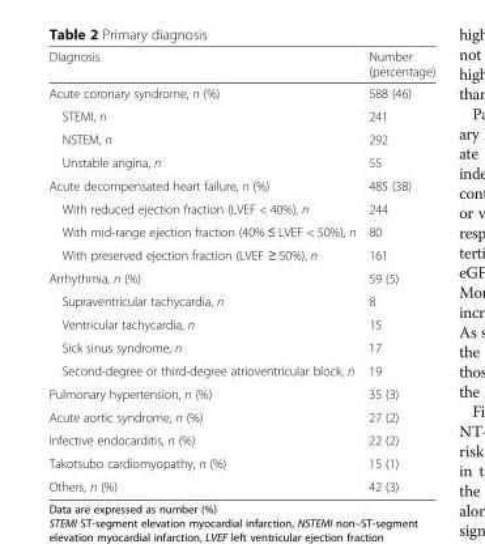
<table><thead><tr><td>Diagnosis</td><td>Number (percentage)</td></tr></thead><tbody><tr><td>Acute coronary syndrome, n (%)</td><td>588 (46)</td></tr><tr><td>STEMI, n</td><td>241</td></tr><tr><td>NSTEM, n</td><td>292</td></tr><tr><td>Unstable angina, n</td><td>55</td></tr><tr><td>Acute decompensated heart failure, n (%)</td><td>485 (38)</td></tr><tr><td>With reduced ejection fraction (LVEF &lt; 40%), n</td><td>244</td></tr><tr><td>With mid-range ejection fraction (40% ≤ LVEF &lt; 50%), n</td><td>80</td></tr><tr><td>With preserved ejection fraction (LVEF ≥ 50%), n</td><td>161</td></tr><tr><td>Arrhythmia, n (%)</td><td>59 (5)</td></tr><tr><td>Supraventricular tachycardia, n</td><td>8</td></tr><tr><td>Ventricular tachycardia, n</td><td>15</td></tr><tr><td>Sick sinus syndrome, n</td><td>17</td></tr><tr><td>Second-degree or third-degree atrioventricular block, n</td><td>19</td></tr><tr><td>Pulmonary hypertension, n (%)</td><td>35 (3)</td></tr><tr><td>Acute aortic syndrome, n (%)</td><td>27 (2)</td></tr><tr><td>Infective endocarditis, n (%)</td><td>22 (2)</td></tr><tr><td>Takotsubo cardiomyopathy, n (%)</td><td>15 (1)</td></tr><tr><td>Others, n (%)</td><td>42 (3)</td></tr></tbody></table>